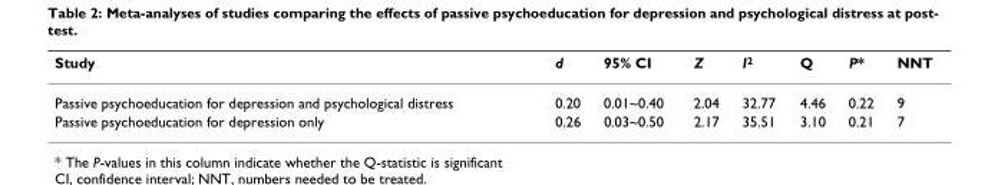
<table><thead><tr><td>Study</td><td>d</td><td>95% CI</td><td>Z</td><td>I<sup>2</sup></td><td>Q</td><td>P*</td><td>NNT</td></tr></thead><tbody><tr><td>Passive psychoeducation for depression and psychological distress</td><td>0.20</td><td>0.01~0.40</td><td>2.04</td><td>32.77</td><td>4.46</td><td>0.22</td><td>9</td></tr><tr><td>Passive psychoeducation for depression only</td><td>0.26</td><td>0.03~0.50</td><td>2.17</td><td>35.51</td><td>3.10</td><td>0.21</td><td>7</td></tr></tbody></table>